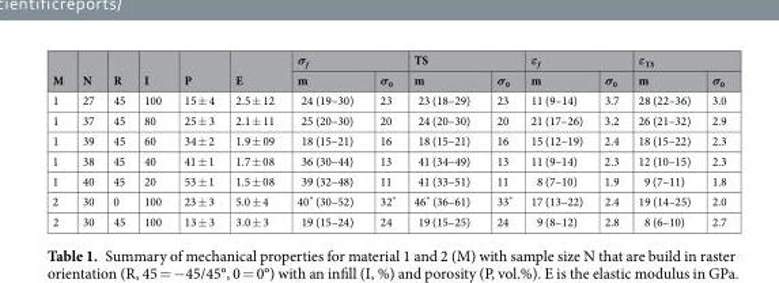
<table><thead><tr><td rowspan="2">M</td><td rowspan="2">N</td><td rowspan="2">R</td><td rowspan="2">I</td><td rowspan="2">P</td><td rowspan="2">E</td><td colspan="2">σ<sub>f</sub></td><td colspan="2">TS</td><td colspan="2">ε<sub>f</sub></td><td colspan="2">ε<sub>TS</sub></td></tr><tr><td>m</td><td>σ<sub>0</sub></td><td>m</td><td>σ<sub>0</sub></td><td>m</td><td>σ<sub>0</sub></td><td>m</td><td>σ<sub>0</sub></td></tr></thead><tbody><tr><td>1</td><td>27</td><td>45</td><td>100</td><td>15 ± 4</td><td>2.5 ± 12</td><td>24 (19–30)</td><td>23</td><td>23 (18–29)</td><td>23</td><td>11 (9–14)</td><td>3.7</td><td>28 (22–36)</td><td>3.0</td></tr><tr><td>1</td><td>37</td><td>45</td><td>80</td><td>25 ± 3</td><td>2.1 ± 11</td><td>25 (20–30)</td><td>20</td><td>24 (20–30)</td><td>20</td><td>21 (17–26)</td><td>3.2</td><td>26 (21–32)</td><td>2.9</td></tr><tr><td>1</td><td>39</td><td>45</td><td>60</td><td>34 ± 2</td><td>1.9 ± 09</td><td>18 (15–21)</td><td>16</td><td>18 (15–21)</td><td>16</td><td>15 (12–19)</td><td>2.4</td><td>18 (15–22)</td><td>2.3</td></tr><tr><td>1</td><td>38</td><td>45</td><td>40</td><td>41 ± 1</td><td>1.7 ± 08</td><td>36 (30–44)</td><td>13</td><td>41 (34–49)</td><td>13</td><td>11 (9–14)</td><td>2.3</td><td>12 (10–15)</td><td>2.3</td></tr><tr><td>1</td><td>40</td><td>45</td><td>20</td><td>53 ± 1</td><td>1.5 ± 08</td><td>39 (32–48)</td><td>11</td><td>41 (33–51)</td><td>11</td><td>8 (7–10)</td><td>1.9</td><td>9 (7–11)</td><td>1.8</td></tr><tr><td>2</td><td>30</td><td>0</td><td>100</td><td>23 ± 3</td><td>5.0 ± 4</td><td>40* (30–52)</td><td>32*</td><td>46* (36–61)</td><td>33*</td><td>17 (13–22)</td><td>2.4</td><td>19 (14–25)</td><td>2.0</td></tr><tr><td>2</td><td>30</td><td>45</td><td>100</td><td>13 ± 3</td><td>3.0 ± 3</td><td>19 (15–24)</td><td>24</td><td>19 (15–25)</td><td>24</td><td>9 (8–12)</td><td>2.8</td><td>8 (6–10)</td><td>2.7</td></tr></tbody></table>